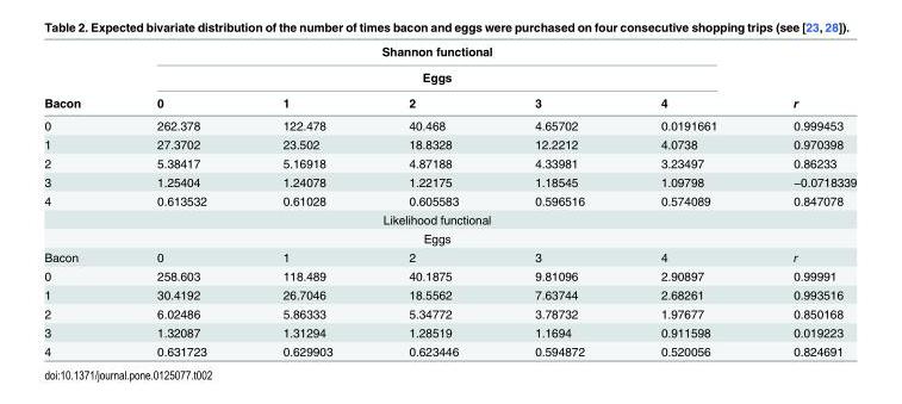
<table><thead><tr><td rowspan="3">Bacon</td><td rowspan="2" colspan="5">Shannon functional Eggs</td><td rowspan="3">r</td></tr><tr></tr><tr><td>0</td><td>1</td><td>2</td><td>3</td><td>4</td></tr></thead><tbody><tr><td>0</td><td>262.378</td><td>122.478</td><td>40.468</td><td>4.65702</td><td>0.0191661</td><td>0.999453</td></tr><tr><td>1</td><td>27.3702</td><td>23.502</td><td>18.8328</td><td>12.2212</td><td>4.0738</td><td>0.970398</td></tr><tr><td>2</td><td>5.38417</td><td>5.16918</td><td>4.87188</td><td>4.33981</td><td>3.23497</td><td>0.86233</td></tr><tr><td>3</td><td>1.25404</td><td>1.24078</td><td>1.22175</td><td>1.18545</td><td>1.09798</td><td>−0.0718339</td></tr><tr><td rowspan="3">4</td><td>0.613532</td><td>0.61028</td><td>0.605583</td><td>0.596516</td><td>0.574089</td><td>0.847078</td></tr><tr><td colspan="5">Likelihood functional</td><td></td></tr><tr><td colspan="5">Eggs</td><td></td></tr><tr><td>Bacon</td><td>0</td><td>1</td><td>2</td><td>3</td><td>4</td><td>r</td></tr><tr><td>0</td><td>258.603</td><td>118.489</td><td>40.1875</td><td>9.81096</td><td>2.90897</td><td>0.99991</td></tr><tr><td>1</td><td>30.4192</td><td>26.7046</td><td>18.5562</td><td>7.63744</td><td>2.68261</td><td>0.993516</td></tr><tr><td>2</td><td>6.02486</td><td>5.86333</td><td>5.34772</td><td>3.78732</td><td>1.97677</td><td>0.850168</td></tr><tr><td>3</td><td>1.32087</td><td>1.31294</td><td>1.28519</td><td>1.1694</td><td>0.911598</td><td>0.019223</td></tr><tr><td>4</td><td>0.631723</td><td>0.629903</td><td>0.623446</td><td>0.594872</td><td>0.520056</td><td>0.824691</td></tr></tbody></table>